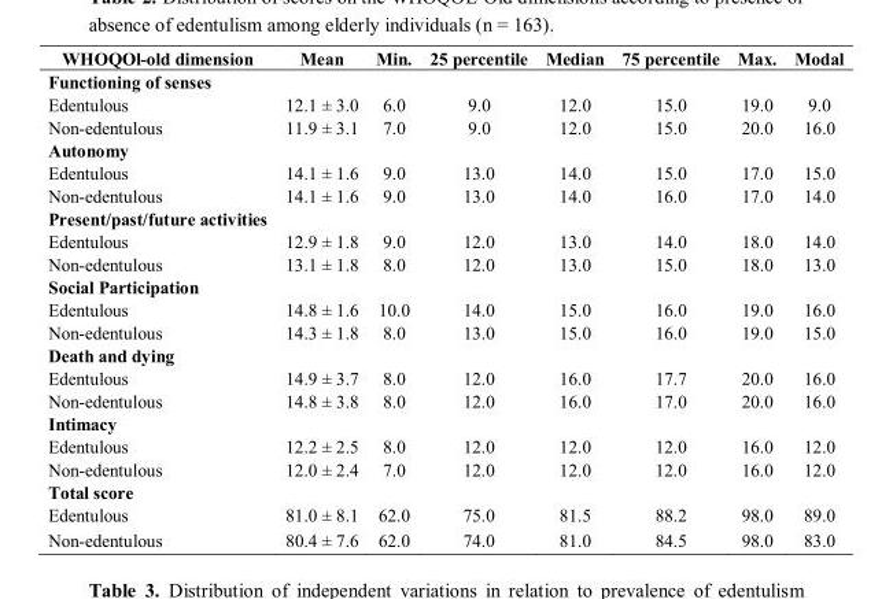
<table><thead><tr><td>WHOQOl-old dimension</td><td>Mean</td><td>Min.</td><td>25 percentile</td><td>Median</td><td>75 percentile</td><td>Max.</td><td>Modal</td></tr></thead><tbody><tr><td colspan="8">Functioning of senses</td></tr><tr><td>Edentulous</td><td>12.1 ± 3.0</td><td>6.0</td><td>9.0</td><td>12.0</td><td>15.0</td><td>19.0</td><td>9.0</td></tr><tr><td>Non-edentulous</td><td>11.9 ± 3.1</td><td>7.0</td><td>9.0</td><td>12.0</td><td>15.0</td><td>20.0</td><td>16.0</td></tr><tr><td colspan="8">Autonomy</td></tr><tr><td>Edentulous</td><td>14.1 ± 1.6</td><td>9.0</td><td>13.0</td><td>14.0</td><td>15.0</td><td>17.0</td><td>15.0</td></tr><tr><td>Non-edentulous</td><td>14.1 ± 1.6</td><td>9.0</td><td>13.0</td><td>14.0</td><td>16.0</td><td>17.0</td><td>14.0</td></tr><tr><td colspan="8">Present/past/future activities</td></tr><tr><td>Edentulous</td><td>12.9 ± 1.8</td><td>9.0</td><td>12.0</td><td>13.0</td><td>14.0</td><td>18.0</td><td>14.0</td></tr><tr><td>Non-edentulous</td><td>13.1 ± 1.8</td><td>8.0</td><td>12.0</td><td>13.0</td><td>15.0</td><td>18.0</td><td>13.0</td></tr><tr><td colspan="8">Social Participation</td></tr><tr><td>Edentulous</td><td>14.8 ± 1.6</td><td>10.0</td><td>14.0</td><td>15.0</td><td>16.0</td><td>19.0</td><td>16.0</td></tr><tr><td>Non-edentulous</td><td>14.3 ± 1.8</td><td>8.0</td><td>13.0</td><td>15.0</td><td>16.0</td><td>19.0</td><td>15.0</td></tr><tr><td colspan="8">Death and dying</td></tr><tr><td>Edentulous</td><td>14.9 ± 3.7</td><td>8.0</td><td>12.0</td><td>16.0</td><td>17.7</td><td>20.0</td><td>16.0</td></tr><tr><td>Non-edentulous</td><td>14.8 ± 3.8</td><td>8.0</td><td>12.0</td><td>16.0</td><td>17.0</td><td>20.0</td><td>16.0</td></tr><tr><td colspan="8">Intimacy</td></tr><tr><td>Edentulous</td><td>12.2 ± 2.5</td><td>8.0</td><td>12.0</td><td>12.0</td><td>12.0</td><td>16.0</td><td>12.0</td></tr><tr><td>Non-edentulous</td><td>12.0 ± 2.4</td><td>7.0</td><td>12.0</td><td>12.0</td><td>12.0</td><td>16.0</td><td>12.0</td></tr><tr><td colspan="8">Total score</td></tr><tr><td>Edentulous</td><td>81.0 ± 8.1</td><td>62.0</td><td>75.0</td><td>81.5</td><td>88.2</td><td>98.0</td><td>89.0</td></tr><tr><td>Non-edentulous</td><td>80.4 ± 7.6</td><td>62.0</td><td>74.0</td><td>81.0</td><td>84.5</td><td>98.0</td><td>83.0</td></tr></tbody></table>